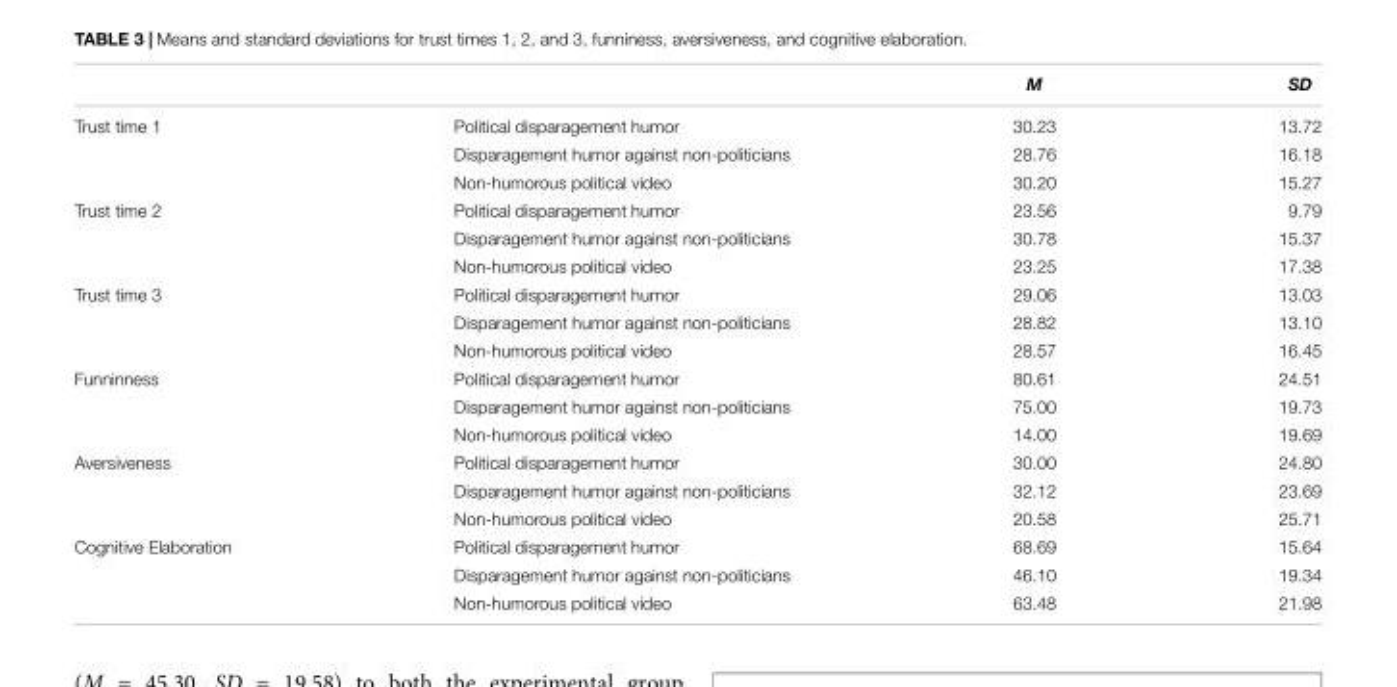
<table><thead><tr><td></td><td></td><td>M</td><td>SD</td></tr></thead><tbody><tr><td rowspan="3">Trust time 1</td><td>Political disparagement humor</td><td>30.23</td><td>13.72</td></tr><tr><td>Disparagement humor against non-politicians</td><td>28.76</td><td>16.18</td></tr><tr><td>Non-humorous political video</td><td>30.20</td><td>15.27</td></tr><tr><td rowspan="3">Trust time 2</td><td>Political disparagement humor</td><td>23.56</td><td>9.79</td></tr><tr><td>Disparagement humor against non-politicians</td><td>30.78</td><td>15.37</td></tr><tr><td>Non-humorous political video</td><td>23.25</td><td>17.38</td></tr><tr><td rowspan="3">Trust time 3</td><td>Political disparagement humor</td><td>29.06</td><td>13.03</td></tr><tr><td>Disparagement humor against non-politicians</td><td>28.82</td><td>13.10</td></tr><tr><td>Non-humorous political video</td><td>28.57</td><td>16.45</td></tr><tr><td rowspan="3">Funninness</td><td>Political disparagement humor</td><td>80.61</td><td>24.51</td></tr><tr><td>Disparagement humor against non-politicians</td><td>75.00</td><td>19.73</td></tr><tr><td>Non-humorous political video</td><td>14.00</td><td>19.69</td></tr><tr><td rowspan="3">Aversiveness</td><td>Political disparagement humor</td><td>30.00</td><td>24.80</td></tr><tr><td>Disparagement humor against non-politicians</td><td>32.12</td><td>23.69</td></tr><tr><td>Non-humorous political video</td><td>20.58</td><td>25.71</td></tr><tr><td rowspan="3">Cognitive Elaboration</td><td>Political disparagement humor</td><td>68.69</td><td>15.64</td></tr><tr><td>Disparagement humor against non-politicians</td><td>46.10</td><td>19.34</td></tr><tr><td>Non-humorous political video</td><td>63.48</td><td>21.98</td></tr></tbody></table>